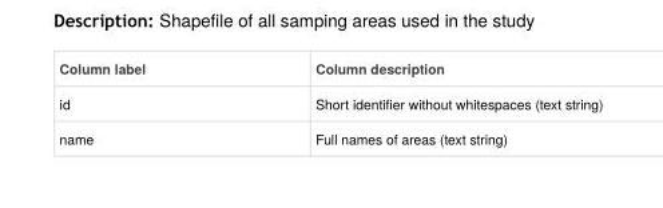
<table><thead><tr><td>Column label</td><td>Column description</td></tr></thead><tbody><tr><td>id</td><td>Short identifier without whitespaces (text string)</td></tr><tr><td>name</td><td>Full names of areas (text string)</td></tr></tbody></table>